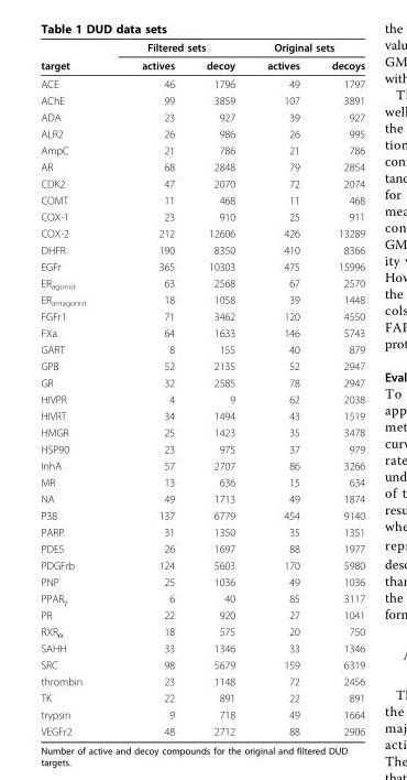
<table><thead><tr><td rowspan="2">target</td><td colspan="2">Filtered sets</td><td colspan="2">Original sets</td></tr><tr><td>actives</td><td>decoy</td><td>actives</td><td>decoys</td></tr></thead><tbody><tr><td>ACE</td><td>46</td><td>1796</td><td>49</td><td>1797</td></tr><tr><td>AChE</td><td>99</td><td>3859</td><td>107</td><td>3891</td></tr><tr><td>ADA</td><td>23</td><td>927</td><td>39</td><td>927</td></tr><tr><td>ALR2</td><td>26</td><td>986</td><td>26</td><td>995</td></tr><tr><td>AmpC</td><td>21</td><td>786</td><td>21</td><td>786</td></tr><tr><td>AR</td><td>68</td><td>2848</td><td>79</td><td>2854</td></tr><tr><td>CDK2</td><td>47</td><td>2070</td><td>72</td><td>2074</td></tr><tr><td>COMT</td><td>11</td><td>468</td><td>11</td><td>468</td></tr><tr><td>COX-1</td><td>23</td><td>910</td><td>25</td><td>911</td></tr><tr><td>COX-2</td><td>212</td><td>12606</td><td>426</td><td>13289</td></tr><tr><td>DHFR</td><td>190</td><td>8350</td><td>410</td><td>8366</td></tr><tr><td>EGFr</td><td>365</td><td>10303</td><td>475</td><td>15996</td></tr><tr><td>ER<sub>agonist</sub></td><td>63</td><td>2568</td><td>67</td><td>2570</td></tr><tr><td>ER<sub>antagonist</sub></td><td>18</td><td>1058</td><td>39</td><td>1448</td></tr><tr><td>FGFr1</td><td>71</td><td>3462</td><td>120</td><td>4550</td></tr><tr><td>FXa</td><td>64</td><td>1633</td><td>146</td><td>5743</td></tr><tr><td>GART</td><td>8</td><td>155</td><td>40</td><td>879</td></tr><tr><td>GPB</td><td>52</td><td>2135</td><td>52</td><td>2947</td></tr><tr><td>GR</td><td>32</td><td>2585</td><td>78</td><td>2947</td></tr><tr><td>HIVPR</td><td>4</td><td>9</td><td>62</td><td>2038</td></tr><tr><td>HIVRT</td><td>34</td><td>1494</td><td>43</td><td>1519</td></tr><tr><td>HMGR</td><td>25</td><td>1423</td><td>35</td><td>3478</td></tr><tr><td>HSP90</td><td>23</td><td>975</td><td>37</td><td>979</td></tr><tr><td>InhA</td><td>57</td><td>2707</td><td>86</td><td>3266</td></tr><tr><td>MR</td><td>13</td><td>636</td><td>15</td><td>634</td></tr><tr><td>NA</td><td>49</td><td>1713</td><td>49</td><td>1874</td></tr><tr><td>P38</td><td>137</td><td>6779</td><td>454</td><td>9140</td></tr><tr><td>PARP</td><td>31</td><td>1350</td><td>35</td><td>1351</td></tr><tr><td>PDE5</td><td>26</td><td>1697</td><td>88</td><td>1977</td></tr><tr><td>PDGFrb</td><td>124</td><td>5603</td><td>170</td><td>5980</td></tr><tr><td>PNP</td><td>25</td><td>1036</td><td>49</td><td>1036</td></tr><tr><td>PPAR<sub>γ</sub></td><td>6</td><td>40</td><td>85</td><td>3117</td></tr><tr><td>PR</td><td>22</td><td>920</td><td>27</td><td>1041</td></tr><tr><td>RXR<sub>α</sub></td><td>18</td><td>575</td><td>20</td><td>750</td></tr><tr><td>SAHH</td><td>33</td><td>1346</td><td>33</td><td>1346</td></tr><tr><td>SRC</td><td>98</td><td>5679</td><td>159</td><td>6319</td></tr><tr><td>thrombin</td><td>23</td><td>1148</td><td>72</td><td>2456</td></tr><tr><td>TK</td><td>22</td><td>891</td><td>22</td><td>891</td></tr><tr><td>trypsin</td><td>9</td><td>718</td><td>49</td><td>1664</td></tr><tr><td>VEGFr2</td><td>48</td><td>2712</td><td>88</td><td>2906</td></tr></tbody></table>